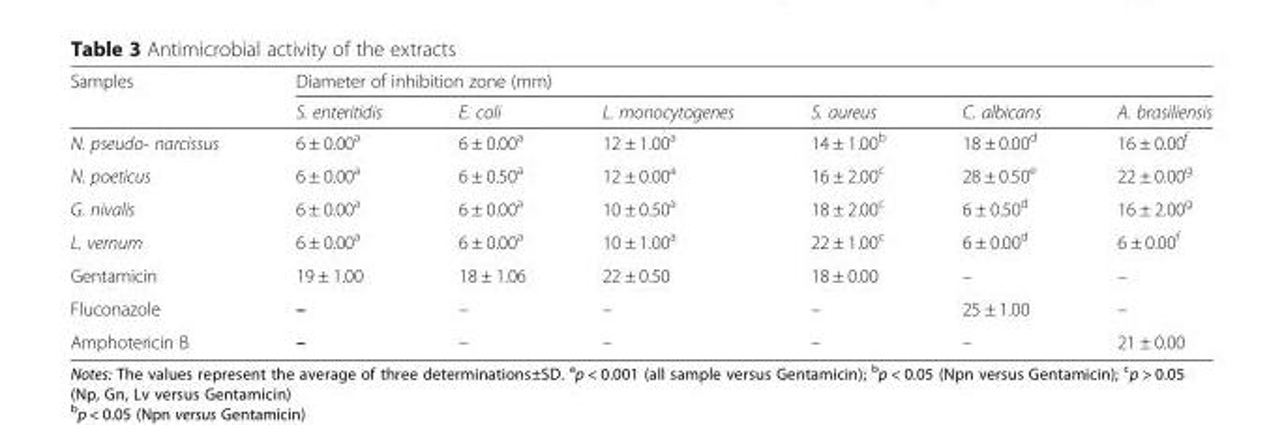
<table><thead><tr><td rowspan="2">Samples</td><td colspan="6">Diameter of inhibition zone (mm)</td></tr><tr><td>S. enteritidis</td><td>E. coli</td><td>L. monocytogenes</td><td>S. aureus</td><td>C. albicans</td><td>A. brasiliensis</td></tr></thead><tbody><tr><td>N. pseudo- narcissus</td><td>6 ± 0.00<sup>a</sup></td><td>6 ± 0.00<sup>a</sup></td><td>12 ± 1.00<sup>a</sup></td><td>14 ± 1.00<sup>b</sup></td><td>18 ± 0.00<sup>d</sup></td><td>16 ± 0.00<sup>f</sup></td></tr><tr><td>N. poeticus</td><td>6 ± 0.00<sup>a</sup></td><td>6 ± 0.50<sup>a</sup></td><td>12 ± 0.00<sup>a</sup></td><td>16 ± 2.00<sup>c</sup></td><td>28 ± 0.50<sup>e</sup></td><td>22 ± 0.00<sup>g</sup></td></tr><tr><td>G. nivalis</td><td>6 ± 0.00<sup>a</sup></td><td>6 ± 0.00<sup>a</sup></td><td>10 ± 0.50<sup>a</sup></td><td>18 ± 2.00<sup>c</sup></td><td>6 ± 0.50<sup>d</sup></td><td>16 ± 2.00<sup>g</sup></td></tr><tr><td>L. vernum</td><td>6 ± 0.00<sup>a</sup></td><td>6 ± 0.00<sup>a</sup></td><td>10 ± 1.00<sup>a</sup></td><td>22 ± 1.00<sup>c</sup></td><td>6 ± 0.00<sup>d</sup></td><td>6 ± 0.00<sup>f</sup></td></tr><tr><td>Gentamicin</td><td>19 ± 1.00</td><td>18 ± 1.06</td><td>22 ± 0.50</td><td>18 ± 0.00</td><td>–</td><td>–</td></tr><tr><td>Fluconazole</td><td>–</td><td>–</td><td>–</td><td>–</td><td>25 ± 1.00</td><td>–</td></tr><tr><td>Amphotericin B</td><td>–</td><td>–</td><td>–</td><td>–</td><td>–</td><td>21 ± 0.00</td></tr></tbody></table>